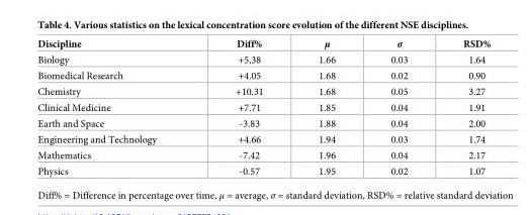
<table><thead><tr><td>Discipline</td><td>Diff%</td><td>μ</td><td>σ</td><td>RSD%</td></tr></thead><tbody><tr><td>Biology</td><td>+5,38</td><td>1.66</td><td>0.03</td><td>1.64</td></tr><tr><td>Biomedical Research</td><td>+4.05</td><td>1.68</td><td>0.02</td><td>0.90</td></tr><tr><td>Chemistry</td><td>+10.31</td><td>1.68</td><td>0.05</td><td>3.27</td></tr><tr><td>Clinical Medicine</td><td>+7.71</td><td>1.85</td><td>0.04</td><td>1.91</td></tr><tr><td>Earth and Space</td><td>-3.83</td><td>1.88</td><td>0.04</td><td>2.00</td></tr><tr><td>Engineering and Technology</td><td>+4.66</td><td>1.94</td><td>0.03</td><td>1.74</td></tr><tr><td>Mathematics</td><td>-7.42</td><td>1.96</td><td>0.04</td><td>2.17</td></tr><tr><td>Physics</td><td>-0.57</td><td>1.95</td><td>0.02</td><td>1.07</td></tr></tbody></table>